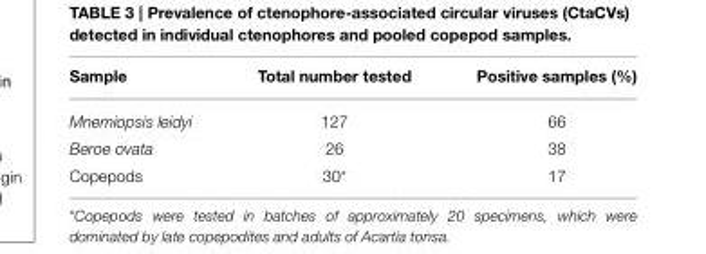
<table><thead><tr><td>Sample</td><td>Total number tested</td><td>Positive samples (%)</td></tr></thead><tbody><tr><td>Mnemiopsis leidyi</td><td>127</td><td>66</td></tr><tr><td>Beroe ovata</td><td>26</td><td>38</td></tr><tr><td>Copepods</td><td>30*</td><td>17</td></tr></tbody></table>